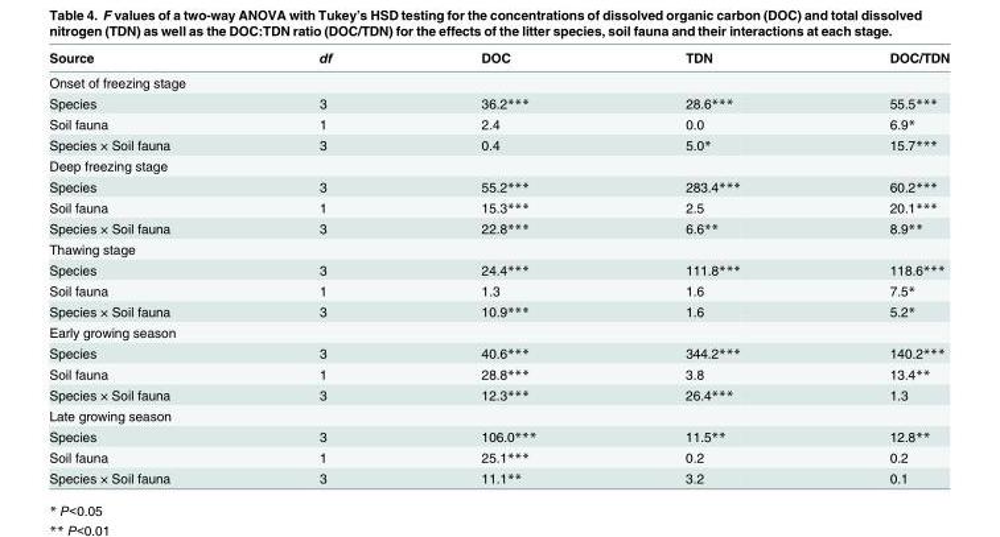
<table><thead><tr><td>Source</td><td>df</td><td>DOC</td><td>TDN</td><td>DOC/TDN</td></tr></thead><tbody><tr><td colspan="5">Onset of freezing stage</td></tr><tr><td>Species</td><td>3</td><td>36.2***</td><td>28.6***</td><td>55.5***</td></tr><tr><td>Soil fauna</td><td>1</td><td>2.4</td><td>0.0</td><td>6.9*</td></tr><tr><td>Species × Soil fauna</td><td>3</td><td>0.4</td><td>5.0*</td><td>15.7***</td></tr><tr><td colspan="5">Deep freezing stage</td></tr><tr><td>Species</td><td>3</td><td>55.2***</td><td>283.4***</td><td>60.2***</td></tr><tr><td>Soil fauna</td><td>1</td><td>15.3***</td><td>2.5</td><td>20.1***</td></tr><tr><td>Species × Soil fauna</td><td>3</td><td>22.8***</td><td>6.6**</td><td>8.9**</td></tr><tr><td colspan="5">Thawing stage</td></tr><tr><td>Species</td><td>3</td><td>24.4***</td><td>111.8***</td><td>118.6***</td></tr><tr><td>Soil fauna</td><td>1</td><td>1.3</td><td>1.6</td><td>7.5*</td></tr><tr><td>Species × Soil fauna</td><td>3</td><td>10.9***</td><td>1.6</td><td>5.2*</td></tr><tr><td colspan="5">Early growing season</td></tr><tr><td>Species</td><td>3</td><td>40.6***</td><td>344.2***</td><td>140.2***</td></tr><tr><td>Soil fauna</td><td>1</td><td>28.8***</td><td>3.8</td><td>13.4**</td></tr><tr><td>Species × Soil fauna</td><td>3</td><td>12.3***</td><td>26.4***</td><td>1.3</td></tr><tr><td colspan="5">Late growing season</td></tr><tr><td>Species</td><td>3</td><td>106.0***</td><td>11.5**</td><td>12.8**</td></tr><tr><td>Soil fauna</td><td>1</td><td>25.1***</td><td>0.2</td><td>0.2</td></tr><tr><td>Species × Soil fauna</td><td>3</td><td>11.1**</td><td>3.2</td><td>0.1</td></tr></tbody></table>